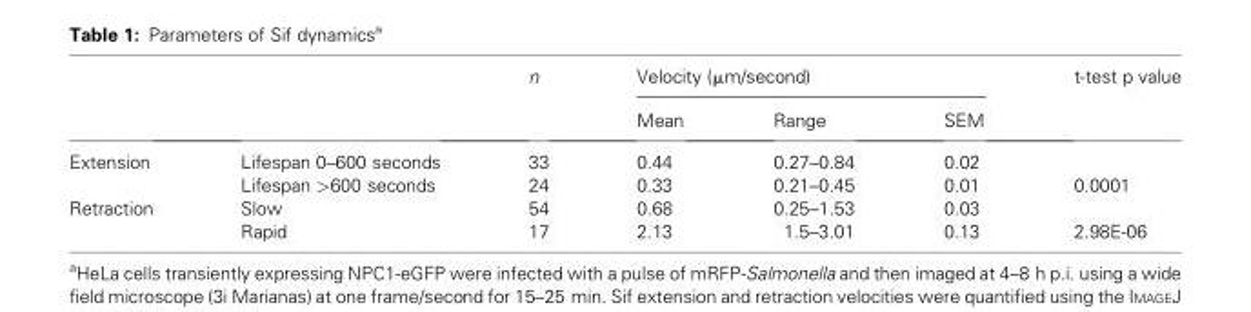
<table><thead><tr><td rowspan="2"></td><td rowspan="2"></td><td rowspan="2">n</td><td colspan="3">Velocity (μm/second)</td><td rowspan="2">t-test p value</td></tr><tr><td>Mean</td><td>Range</td><td>SEM</td></tr></thead><tbody><tr><td rowspan="2">Extension</td><td>Lifespan 0–600 seconds</td><td>33</td><td>0.44</td><td>0.27–0.84</td><td>0.02</td><td></td></tr><tr><td>Lifespan &gt;600 seconds</td><td>24</td><td>0.33</td><td>0.21–0.45</td><td>0.01</td><td>0.0001</td></tr><tr><td rowspan="2">Retraction</td><td>Slow</td><td>54</td><td>0.68</td><td>0.25–1.53</td><td>0.03</td><td></td></tr><tr><td>Rapid</td><td>17</td><td>2.13</td><td>1.5–3.01</td><td>0.13</td><td>2.98E-06</td></tr></tbody></table>